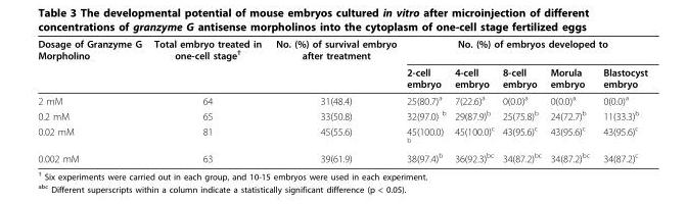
<table><thead><tr><td rowspan="2">Dosage of Granzyme G Morpholino</td><td rowspan="2">Total embryo treated in one-cell stage<sup>†</sup></td><td rowspan="2">No. (%) of survival embryo after treatment</td><td colspan="5">No. (%) of embryos developed to</td></tr><tr><td>2-cell embryo</td><td>4-cell embryo</td><td>8-cell embryo</td><td>Morula embryo</td><td>Blastocyst embryo</td></tr></thead><tbody><tr><td>2 mM</td><td>64</td><td>31(48.4)</td><td>25(80.7)<sup>a</sup></td><td>7(22.6)<sup>a</sup></td><td>0(0.0)<sup>a</sup></td><td>0(0.0)<sup>a</sup></td><td>0(0.0)<sup>a</sup></td></tr><tr><td>0.2 mM</td><td>65</td><td>33(50.8)</td><td>32(97.0) <sup>b</sup></td><td>29(87.9)<sup>b</sup></td><td>25(75.8)<sup>b</sup></td><td>24(72.7)<sup>b</sup></td><td>11(33.3)<sup>b</sup></td></tr><tr><td>0.02 mM</td><td>81</td><td>45(55.6)</td><td>45(100.0) <sup>b</sup></td><td>45(100.0)<sup>c</sup></td><td>43(95.6)<sup>c</sup></td><td>43(95.6)<sup>c</sup></td><td>43(95.6)<sup>c</sup></td></tr><tr><td>0.002 mM</td><td>63</td><td>39(61.9)</td><td>38(97.4)<sup>b</sup></td><td>36(92.3)<sup>bc</sup></td><td>34(87.2)<sup>bc</sup></td><td>34(87.2)<sup>bc</sup></td><td>34(87.2)<sup>c</sup></td></tr></tbody></table>